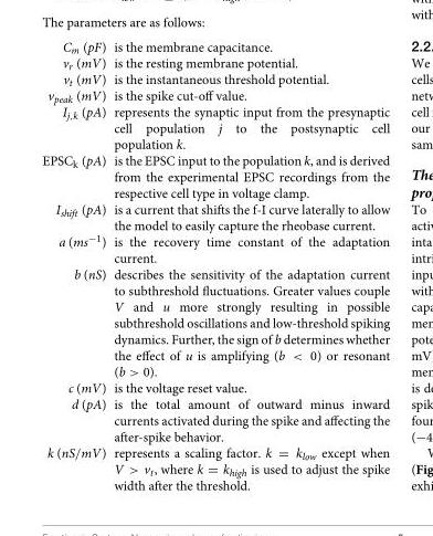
<table><tbody><tr><td>C<sub>m</sub> (pF)</td><td>is the membrane capacitance.</td></tr><tr><td>v<sub>r</sub> (mV)</td><td>is the resting membrane potential.</td></tr><tr><td>v<sub>t</sub> (mV)</td><td>is the instantaneous threshold potential.</td></tr><tr><td>v<sub>peak</sub> (mV)</td><td>is the spike cut-off value.</td></tr><tr><td>I<sub>j,k</sub> (pA)</td><td>represents the synaptic input from the presynaptic cell population j to the postsynaptic cell population k.</td></tr><tr><td>EPSC<sub>k</sub> (pA)</td><td>is the EPSC input to the population k, and is derived from the experimental EPSC recordings from the respective cell type in voltage clamp.</td></tr><tr><td>I<sub>shift</sub> (pA)</td><td>is a current that shifts the f-I curve laterally to allow the model to easily capture the rheobase current.</td></tr><tr><td>a (ms<sup>−1</sup>)</td><td>is the recovery time constant of the adaptation current.</td></tr><tr><td>b (nS)</td><td>describes the sensitivity of the adaptation current to subthreshold fluctuations. Greater values couple V and u more strongly resulting in possible subthreshold oscillations and low-threshold spiking dynamics. Further, the sign of b determines whether the effect of u is amplifying (b &lt; 0) or resonant (b &gt; 0).</td></tr><tr><td>c (mV)</td><td>is the voltage reset value.</td></tr><tr><td>d (pA)</td><td>is the total amount of outward minus inward currents activated during the spike and affecting the after-spike behavior.</td></tr><tr><td>k (nS/mV)</td><td>represents a scaling factor. k = k<sub>low</sub> except when V &gt; v<sub>t</sub>, where k = k<sub>high</sub> is used to adjust the spike width after the threshold.</td></tr></tbody></table>